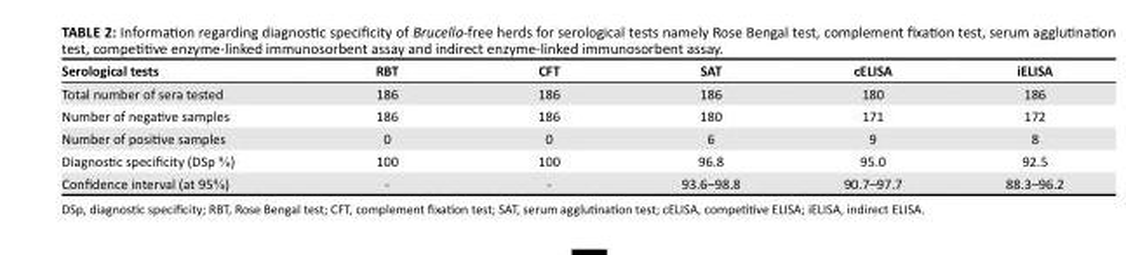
<table><thead><tr><td>Serological tests</td><td>RBT</td><td>CFT</td><td>SAT</td><td>cELISA</td><td>iELISA</td></tr></thead><tbody><tr><td>Total number of sera tested</td><td>186</td><td>186</td><td>186</td><td>180</td><td>186</td></tr><tr><td>Number of negative samples</td><td>186</td><td>186</td><td>180</td><td>171</td><td>172</td></tr><tr><td>Number of positive samples</td><td>0</td><td>0</td><td>6</td><td>9</td><td>8</td></tr><tr><td>Diagnostic specificity (DSp %)</td><td>100</td><td>100</td><td>96.8</td><td>95.0</td><td>92.5</td></tr><tr><td>Confidence interval (at 95%)</td><td>-</td><td>-</td><td>93.6–98.8</td><td>90.7–97.7</td><td>88.3–96.2</td></tr></tbody></table>